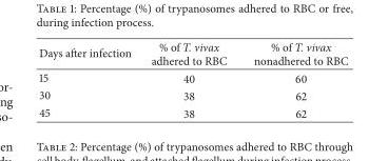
<table><thead><tr><td>Days after infection</td><td>% of T. vivax adhered to RBC</td><td>% of T. vivax nonadhered to RBC</td></tr></thead><tbody><tr><td>15</td><td>40</td><td>60</td></tr><tr><td>30</td><td>38</td><td>62</td></tr><tr><td>45</td><td>38</td><td>62</td></tr></tbody></table>